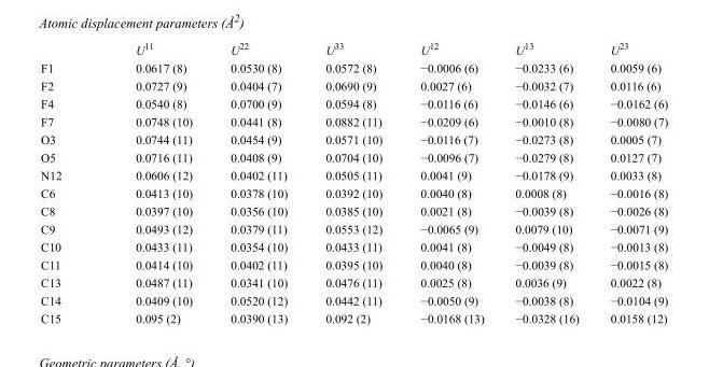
<table><thead><tr><td></td><td>U<sup>11</sup></td><td>U<sup>22</sup></td><td>U<sup>33</sup></td><td>U<sup>12</sup></td><td>U<sup>13</sup></td><td>U<sup>23</sup></td></tr></thead><tbody><tr><td>F1</td><td>0.0617 (8)</td><td>0.0530 (8)</td><td>0.0572 (8)</td><td>−0.0006 (6)</td><td>−0.0233 (6)</td><td>0.0059 (6)</td></tr><tr><td>F2</td><td>0.0727 (9)</td><td>0.0404 (7)</td><td>0.0690 (9)</td><td>0.0027 (6)</td><td>−0.0032 (7)</td><td>0.0116 (6)</td></tr><tr><td>F4</td><td>0.0540 (8)</td><td>0.0700 (9)</td><td>0.0594 (8)</td><td>−0.0116 (6)</td><td>−0.0146 (6)</td><td>−0.0162 (6)</td></tr><tr><td>F7</td><td>0.0748 (10)</td><td>0.0441 (8)</td><td>0.0882 (11)</td><td>−0.0209 (6)</td><td>−0.0010 (8)</td><td>−0.0080 (7)</td></tr><tr><td>O3</td><td>0.0744 (11)</td><td>0.0454 (9)</td><td>0.0571 (10)</td><td>−0.0116 (7)</td><td>−0.0273 (8)</td><td>0.0005 (7)</td></tr><tr><td>O5</td><td>0.0716 (11)</td><td>0.0408 (9)</td><td>0.0704 (10)</td><td>−0.0096 (7)</td><td>−0.0279 (8)</td><td>0.0127 (7)</td></tr><tr><td>N12</td><td>0.0606 (12)</td><td>0.0402 (11)</td><td>0.0505 (11)</td><td>0.0041 (9)</td><td>−0.0178 (9)</td><td>0.0033 (8)</td></tr><tr><td>C6</td><td>0.0413 (10)</td><td>0.0378 (10)</td><td>0.0392 (10)</td><td>0.0040 (8)</td><td>0.0008 (8)</td><td>−0.0016 (8)</td></tr><tr><td>C8</td><td>0.0397 (10)</td><td>0.0356 (10)</td><td>0.0385 (10)</td><td>0.0021 (8)</td><td>−0.0039 (8)</td><td>−0.0026 (8)</td></tr><tr><td>C9</td><td>0.0493 (12)</td><td>0.0379 (11)</td><td>0.0553 (12)</td><td>−0.0065 (9)</td><td>0.0079 (10)</td><td>−0.0071 (9)</td></tr><tr><td>C10</td><td>0.0433 (11)</td><td>0.0354 (10)</td><td>0.0433 (11)</td><td>0.0041 (8)</td><td>−0.0049 (8)</td><td>−0.0013 (8)</td></tr><tr><td>C11</td><td>0.0414 (10)</td><td>0.0402 (11)</td><td>0.0395 (10)</td><td>0.0040 (8)</td><td>−0.0039 (8)</td><td>−0.0015 (8)</td></tr><tr><td>C13</td><td>0.0487 (11)</td><td>0.0341 (10)</td><td>0.0476 (11)</td><td>0.0025 (8)</td><td>0.0036 (9)</td><td>0.0022 (8)</td></tr><tr><td>C14</td><td>0.0409 (10)</td><td>0.0520 (12)</td><td>0.0442 (11)</td><td>−0.0050 (9)</td><td>−0.0038 (8)</td><td>−0.0104 (9)</td></tr><tr><td>C15</td><td>0.095 (2)</td><td>0.0390 (13)</td><td>0.092 (2)</td><td>−0.0168 (13)</td><td>−0.0328 (16)</td><td>0.0158 (12)</td></tr></tbody></table>